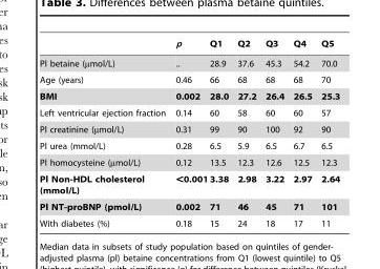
<table><thead><tr><td></td><td>p</td><td>Q1</td><td>Q2</td><td>Q3</td><td>Q4</td><td>Q5</td></tr></thead><tbody><tr><td>Pl betaine (µmol/L)</td><td>..</td><td>28.9</td><td>37.6</td><td>45.3</td><td>54.2</td><td>70.0</td></tr><tr><td>Age (years)</td><td>0.46</td><td>66</td><td>68</td><td>68</td><td>68</td><td>70</td></tr><tr><td>BMI</td><td>0.002</td><td>28.0</td><td>27.2</td><td>26.4</td><td>26.5</td><td>25.3</td></tr><tr><td>Left ventricular ejection fraction</td><td>0.14</td><td>60</td><td>58</td><td>60</td><td>60</td><td>57</td></tr><tr><td>Pl creatinine (µmol/L)</td><td>0.31</td><td>99</td><td>90</td><td>100</td><td>92</td><td>90</td></tr><tr><td>Pl urea (mmol/L)</td><td>0.28</td><td>6.5</td><td>5.9</td><td>6.5</td><td>6.7</td><td>6.5</td></tr><tr><td>Pl homocysteine (µmol/L)</td><td>0.12</td><td>13.5</td><td>12.3</td><td>12.6</td><td>12.5</td><td>12.3</td></tr><tr><td>Pl Non-HDL cholesterol (mmol/L)</td><td>&lt;0.001</td><td>3.38</td><td>2.98</td><td>3.22</td><td>2.97</td><td>2.64</td></tr><tr><td>Pl NT-proBNP (pmol/L)</td><td>0.002</td><td>71</td><td>46</td><td>45</td><td>71</td><td>101</td></tr><tr><td>With diabetes (%)</td><td>0.18</td><td>15</td><td>24</td><td>18</td><td>17</td><td>11</td></tr></tbody></table>